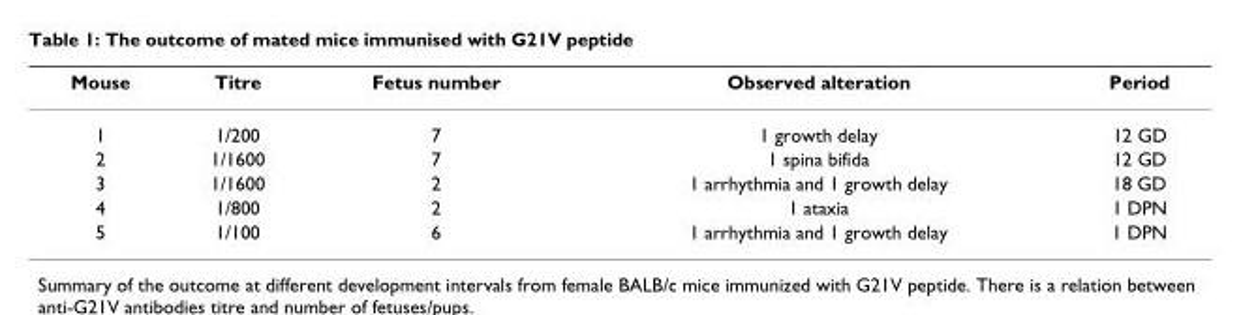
<table><thead><tr><td>Mouse</td><td>Titre</td><td>Fetus number</td><td>Observed alteration</td><td>Period</td></tr></thead><tbody><tr><td>1</td><td>1/200</td><td>7</td><td>1 growth delay</td><td>12 GD</td></tr><tr><td>2</td><td>1/1600</td><td>7</td><td>1 spina bifida</td><td>12 GD</td></tr><tr><td>3</td><td>1/1600</td><td>2</td><td>1 arrhythmia and 1 growth delay</td><td>18 GD</td></tr><tr><td>4</td><td>1/800</td><td>2</td><td>1 ataxia</td><td>1 DPN</td></tr><tr><td>5</td><td>1/100</td><td>6</td><td>1 arrhythmia and 1 growth delay</td><td>1 DPN</td></tr></tbody></table>